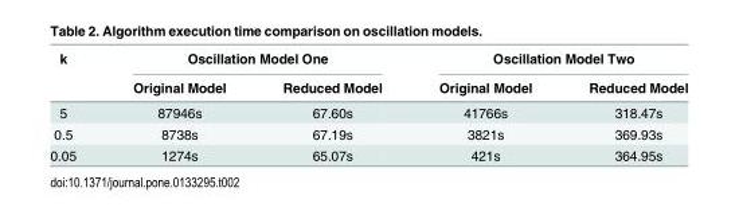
<table><thead><tr><td rowspan="2">k</td><td colspan="2">Oscillation Model One</td><td colspan="2">Oscillation Model Two</td></tr><tr><td>Original Model</td><td>Reduced Model</td><td>Original Model</td><td>Reduced Model</td></tr></thead><tbody><tr><td>5</td><td>87946s</td><td>67.60s</td><td>41766s</td><td>318.47s</td></tr><tr><td>0.5</td><td>8738s</td><td>67.19s</td><td>3821s</td><td>369.93s</td></tr><tr><td>0.05</td><td>1274s</td><td>65.07s</td><td>421s</td><td>364.95s</td></tr></tbody></table>